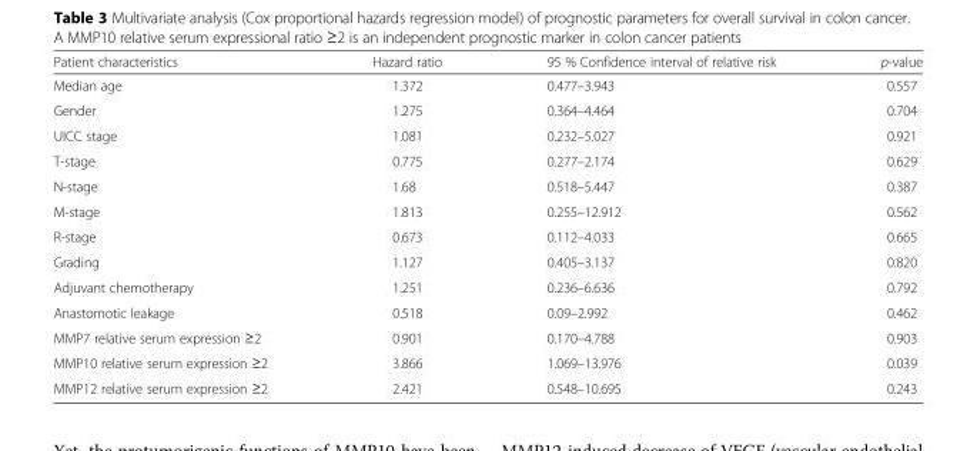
<table><thead><tr><td>Patient characteristics</td><td>Hazard ratio</td><td>95 % Confidence interval of relative risk</td><td>p-value</td></tr></thead><tbody><tr><td>Median age</td><td>1.372</td><td>0.477–3.943</td><td>0.557</td></tr><tr><td>Gender</td><td>1.275</td><td>0.364–4.464</td><td>0.704</td></tr><tr><td>UICC stage</td><td>1.081</td><td>0.232–5.027</td><td>0.921</td></tr><tr><td>T-stage</td><td>0.775</td><td>0.277–2.174</td><td>0.629</td></tr><tr><td>N-stage</td><td>1.68</td><td>0.518–5.447</td><td>0.387</td></tr><tr><td>M-stage</td><td>1.813</td><td>0.255–12.912</td><td>0.562</td></tr><tr><td>R-stage</td><td>0.673</td><td>0.112–4.033</td><td>0.665</td></tr><tr><td>Grading</td><td>1.127</td><td>0.405–3.137</td><td>0.820</td></tr><tr><td>Adjuvant chemotherapy</td><td>1.251</td><td>0.236–6.636</td><td>0.792</td></tr><tr><td>Anastomotic leakage</td><td>0.518</td><td>0.09–2.992</td><td>0.462</td></tr><tr><td>MMP7 relative serum expression ≥2</td><td>0.901</td><td>0.170–4.788</td><td>0.903</td></tr><tr><td>MMP10 relative serum expression ≥2</td><td>3.866</td><td>1.069–13.976</td><td>0.039</td></tr><tr><td>MMP12 relative serum expression ≥2</td><td>2.421</td><td>0.548–10.695</td><td>0.243</td></tr></tbody></table>